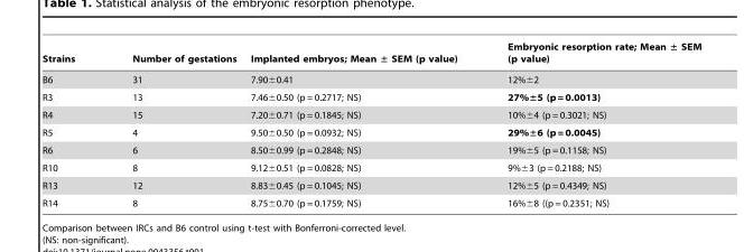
<table><thead><tr><td>Strains</td><td>Number of gestations</td><td>Implanted embryos; Mean ± SEM (p value)</td><td>Embryonic resorption rate; Mean ± SEM (p value)</td></tr></thead><tbody><tr><td>B6</td><td>31</td><td>7.90±0.41</td><td>12%±2</td></tr><tr><td>R3</td><td>13</td><td>7.46±0.50 (p = 0.2717; NS)</td><td>27%±5 (p = 0.0013)</td></tr><tr><td>R4</td><td>15</td><td>7.20±0.71 (p = 0.1845; NS)</td><td>10%±4 (p = 0.3021; NS)</td></tr><tr><td>R5</td><td>4</td><td>9.50±0.50 (p = 0.0932; NS)</td><td>29%±6 (p = 0.0045)</td></tr><tr><td>R6</td><td>6</td><td>8.50±0.99 (p = 0.2848; NS)</td><td>19%±5 (p = 0.1158; NS)</td></tr><tr><td>R10</td><td>8</td><td>9.12±0.51 (p = 0.0828; NS)</td><td>9%±3 (p = 0.2188; NS)</td></tr><tr><td>R13</td><td>12</td><td>8.83±0.45 (p = 0.1045; NS)</td><td>12%±5 (p = 0.4349; NS)</td></tr><tr><td>R14</td><td>8</td><td>8.75±0.70 (p = 0.1759; NS)</td><td>16%±8 ((p = 0.2351; NS)</td></tr></tbody></table>